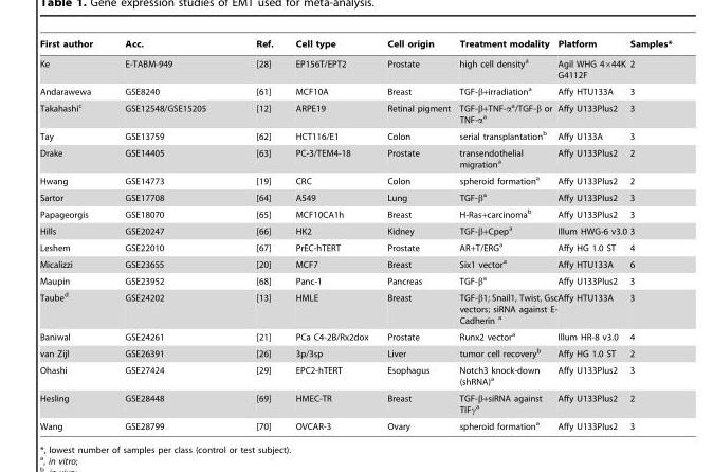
<table><thead><tr><td>First author</td><td>Acc.</td><td>Ref.</td><td>Cell type</td><td>Cell origin</td><td>Treatment modality</td><td>Platform</td><td>Samples*</td></tr></thead><tbody><tr><td>Ke</td><td>E-TABM-949</td><td>[28]</td><td>EP156T/EPT2</td><td>Prostate</td><td>high cell density<sup>a</sup></td><td>Agil WHG 4×44K G4112F</td><td>2</td></tr><tr><td>Andarawewa</td><td>GSE8240</td><td>[61]</td><td>MCF10A</td><td>Breast</td><td>TGF-β+irradiation<sup>a</sup></td><td>Affy HTU133A</td><td>3</td></tr><tr><td>Takahashi<sup>c</sup></td><td>GSE12548/GSE15205</td><td>[12]</td><td>ARPE19</td><td>Retinal pigment</td><td>TGF-β+TNF-α<sup>a</sup>/TGF-β or TNF-α<sup>a</sup></td><td>Affy U133Plus2</td><td>3</td></tr><tr><td>Tay</td><td>GSE13759</td><td>[62]</td><td>HCT116/E1</td><td>Colon</td><td>serial transplantation<sup>b</sup></td><td>Affy U133A</td><td>3</td></tr><tr><td>Drake</td><td>GSE14405</td><td>[63]</td><td>PC-3/TEM4-18</td><td>Prostate</td><td>transendothelial migration<sup>a</sup></td><td>Affy U133Plus2</td><td>2</td></tr><tr><td>Hwang</td><td>GSE14773</td><td>[19]</td><td>CRC</td><td>Colon</td><td>spheroid formation<sup>a</sup></td><td>Affy U133Plus2</td><td>2</td></tr><tr><td>Sartor</td><td>GSE17708</td><td>[64]</td><td>A549</td><td>Lung</td><td>TGF-β<sup>a</sup></td><td>Affy U133Plus2</td><td>3</td></tr><tr><td>Papageorgis</td><td>GSE18070</td><td>[65]</td><td>MCF10CA1h</td><td>Breast</td><td>H-Ras+carcinoma<sup>b</sup></td><td>Affy U133Plus2</td><td>3</td></tr><tr><td>Hills</td><td>GSE20247</td><td>[66]</td><td>HK2</td><td>Kidney</td><td>TGF-β+Cpep<sup>a</sup></td><td>Illum HWG-6 v3.0</td><td>3</td></tr><tr><td>Leshem</td><td>GSE22010</td><td>[67]</td><td>PrEC-hTERT</td><td>Prostate</td><td>AR+T/ERG<sup>a</sup></td><td>Affy HG 1.0 ST</td><td>4</td></tr><tr><td>Micalizzi</td><td>GSE23655</td><td>[20]</td><td>MCF7</td><td>Breast</td><td>Six1 vector<sup>a</sup></td><td>Affy HTU133A</td><td>6</td></tr><tr><td>Maupin</td><td>GSE23952</td><td>[68]</td><td>Panc-1</td><td>Pancreas</td><td>TGF-β<sup>a</sup></td><td>Affy U133Plus2</td><td>3</td></tr><tr><td>Taube<sup>d</sup></td><td>GSE24202</td><td>[13]</td><td>HMLE</td><td>Breast</td><td>TGF-β1; Snail1, Twist, Gsc vectors; siRNA against E- Cadherin a</td><td>Affy HTU133A</td><td>3</td></tr><tr><td>Baniwal</td><td>GSE24261</td><td>[21]</td><td>PCa C4-2B/Rx2dox</td><td>Prostate</td><td>Runx2 vector<sup>a</sup></td><td>Illum HR-8 v3.0</td><td>4</td></tr><tr><td>van Zijl</td><td>GSE26391</td><td>[26]</td><td>3p/3sp</td><td>Liver</td><td>tumor cell recovery<sup>b</sup></td><td>Affy HG 1.0 ST</td><td>2</td></tr><tr><td>Ohashi</td><td>GSE27424</td><td>[29]</td><td>EPC2-hTERT</td><td>Esophagus</td><td>Notch3 knock-down (shRNA)<sup>a</sup></td><td>Affy U133Plus2</td><td>3</td></tr><tr><td>Hesling</td><td>GSE28448</td><td>[69]</td><td>HMEC-TR</td><td>Breast</td><td>TGF-β+siRNA against TIFγ<sup>a</sup></td><td>Affy U133Plus2</td><td>2</td></tr><tr><td>Wang</td><td>GSE28799</td><td>[70]</td><td>OVCAR-3</td><td>Ovary</td><td>spheroid formation<sup>a</sup></td><td>Affy U133Plus2</td><td>3</td></tr></tbody></table>